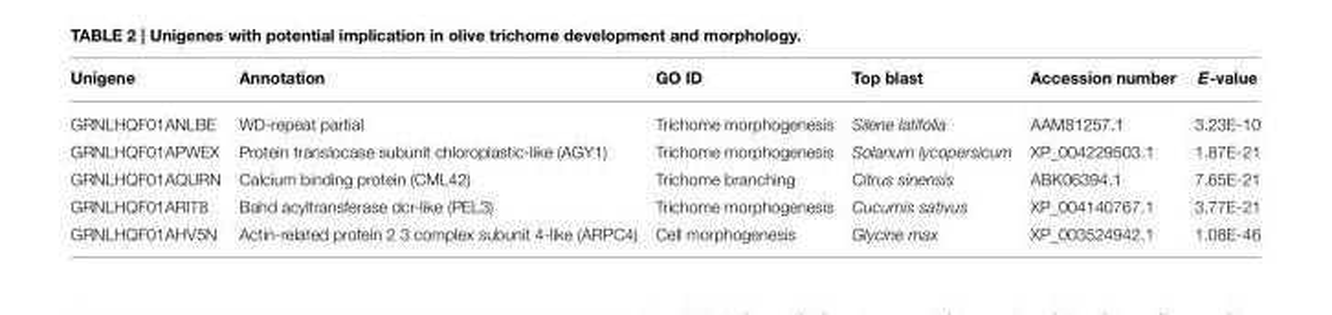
<table><thead><tr><td>Unigene</td><td>Annotation</td><td>GO ID</td><td>Top blast</td><td>Accession number</td><td>E-value</td></tr></thead><tbody><tr><td>GRNLHQF01ANLBE</td><td>WD-repeat partial</td><td>Trichome morphogenesis</td><td>Silene latifolia</td><td>AAM81257.1</td><td>3.23E-10</td></tr><tr><td>GRNLHQF01APWEX</td><td>Protein translocase subunit chloroplastic-like (AGY1)</td><td>Trichome morphogenesis</td><td>Solanum lycopersicum</td><td>XP_004229503.1</td><td>1.87E-21</td></tr><tr><td>GRNLHQF01AQURN</td><td>Calcium binding protein (CML42)</td><td>Trichome branching</td><td>Citrus sinensis</td><td>ABK06394.1</td><td>7.65E-21</td></tr><tr><td>GRNLHQF01ARIT8</td><td>Bahd acyltransferase dcr-like (PEL3)</td><td>Trichome morphogenesis</td><td>Cucumis sativus</td><td>XP_004140767.1</td><td>3.77E-21</td></tr><tr><td>GRNLHQF01AHV5N</td><td>Actin-related protein 2 3 complex subunit 4-like (ARPC4)</td><td>Cell morphogenesis</td><td>Glycine max</td><td>XP_003524942.1</td><td>1.08E-46</td></tr></tbody></table>